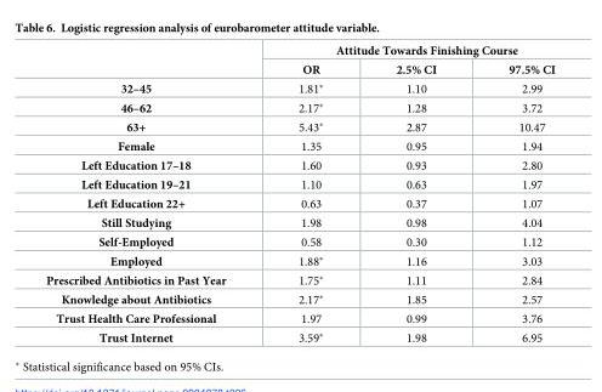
<table><thead><tr><td rowspan="2"></td><td colspan="3">Attitude Towards Finishing Course</td></tr><tr><td>OR</td><td>2.5% CI</td><td>97.5% CI</td></tr></thead><tbody><tr><td>32–45</td><td>1.81*</td><td>1.10</td><td>2.99</td></tr><tr><td>46–62</td><td>2.17*</td><td>1.28</td><td>3.72</td></tr><tr><td>63+</td><td>5.43*</td><td>2.87</td><td>10.47</td></tr><tr><td>Female</td><td>1.35</td><td>0.95</td><td>1.94</td></tr><tr><td>Left Education 17–18</td><td>1.60</td><td>0.93</td><td>2.80</td></tr><tr><td>Left Education 19–21</td><td>1.10</td><td>0.63</td><td>1.97</td></tr><tr><td>Left Education 22+</td><td>0.63</td><td>0.37</td><td>1.07</td></tr><tr><td>Still Studying</td><td>1.98</td><td>0.98</td><td>4.04</td></tr><tr><td>Self-Employed</td><td>0.58</td><td>0.30</td><td>1.12</td></tr><tr><td>Employed</td><td>1.88*</td><td>1.16</td><td>3.03</td></tr><tr><td>Prescribed Antibiotics in Past Year</td><td>1.75*</td><td>1.11</td><td>2.84</td></tr><tr><td>Knowledge about Antibiotics</td><td>2.17*</td><td>1.85</td><td>2.57</td></tr><tr><td>Trust Health Care Professional</td><td>1.97</td><td>0.99</td><td>3.76</td></tr><tr><td>Trust Internet</td><td>3.59*</td><td>1.98</td><td>6.95</td></tr></tbody></table>